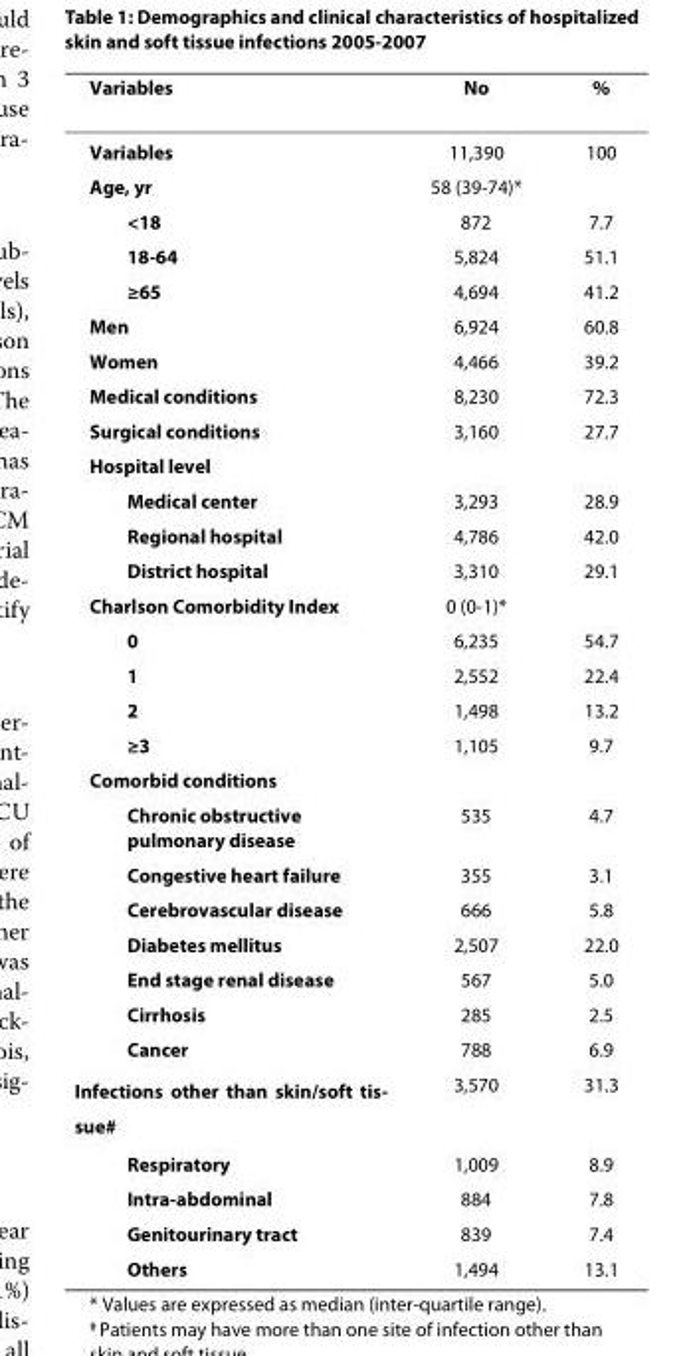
<table><thead><tr><td>Variables</td><td>No</td><td>%</td></tr></thead><tbody><tr><td>Variables</td><td>11,390</td><td>100</td></tr><tr><td>Age, yr</td><td>58 (39-74)*</td><td></td></tr><tr><td>&lt;18</td><td>872</td><td>7.7</td></tr><tr><td>18-64</td><td>5,824</td><td>51.1</td></tr><tr><td>≥65</td><td>4,694</td><td>41.2</td></tr><tr><td>Men</td><td>6,924</td><td>60.8</td></tr><tr><td>Women</td><td>4,466</td><td>39.2</td></tr><tr><td>Medical conditions</td><td>8,230</td><td>72.3</td></tr><tr><td>Surgical conditions</td><td>3,160</td><td>27.7</td></tr><tr><td colspan="3">Hospital level</td></tr><tr><td>Medical center</td><td>3,293</td><td>28.9</td></tr><tr><td>Regional hospital</td><td>4,786</td><td>42.0</td></tr><tr><td>District hospital</td><td>3,310</td><td>29.1</td></tr><tr><td>Charlson Comorbidity Index</td><td>0 (0-1)*</td><td></td></tr><tr><td>0</td><td>6,235</td><td>54.7</td></tr><tr><td>1</td><td>2,552</td><td>22.4</td></tr><tr><td>2</td><td>1,498</td><td>13.2</td></tr><tr><td>≥3</td><td>1,105</td><td>9.7</td></tr><tr><td colspan="3">Comorbid conditions</td></tr><tr><td>Chronic obstructive pulmonary disease</td><td>535</td><td>4.7</td></tr><tr><td>Congestive heart failure</td><td>355</td><td>3.1</td></tr><tr><td>Cerebrovascular disease</td><td>666</td><td>5.8</td></tr><tr><td>Diabetes mellitus</td><td>2,507</td><td>22.0</td></tr><tr><td>End stage renal disease</td><td>567</td><td>5.0</td></tr><tr><td>Cirrhosis</td><td>285</td><td>2.5</td></tr><tr><td>Cancer</td><td>788</td><td>6.9</td></tr><tr><td>Infections other than skin/soft tis- sue#</td><td>3,570</td><td>31.3</td></tr><tr><td>Respiratory</td><td>1,009</td><td>8.9</td></tr><tr><td>Intra-abdominal</td><td>884</td><td>7.8</td></tr><tr><td>Genitourinary tract</td><td>839</td><td>7.4</td></tr><tr><td>Others</td><td>1,494</td><td>13.1</td></tr></tbody></table>